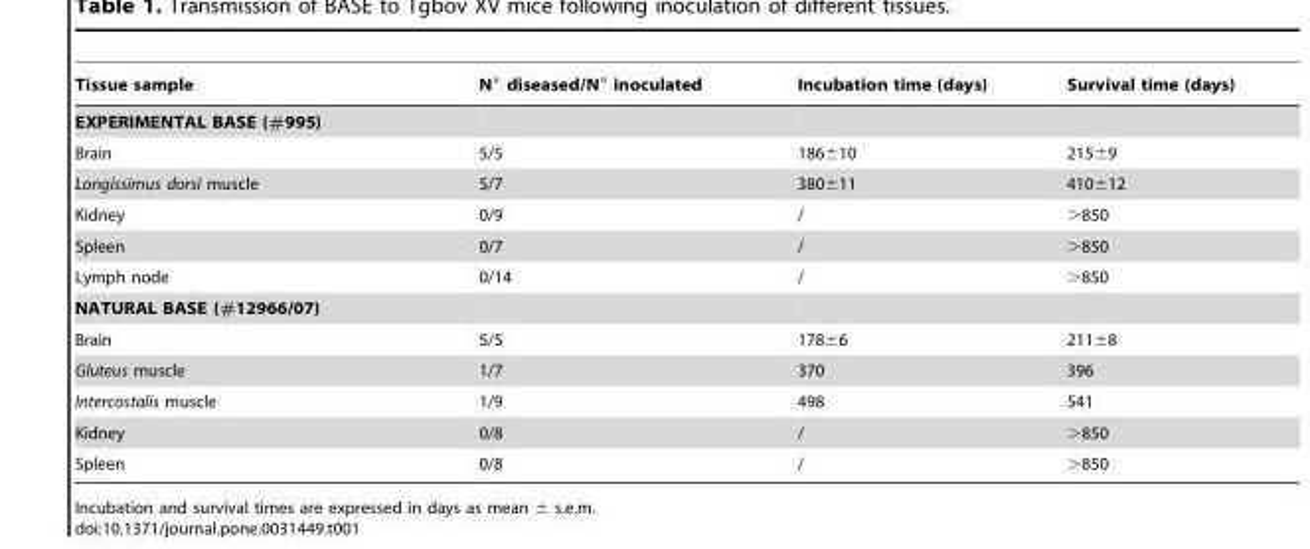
<table><thead><tr><td>Tissue sample</td><td>N° diseased/N° inoculated</td><td>Incubation time (days)</td><td>Survival time (days)</td></tr></thead><tbody><tr><td colspan="4">EXPERIMENTAL BASE (#995)</td></tr><tr><td>Brain</td><td>5/5</td><td>186±10</td><td>215±9</td></tr><tr><td>Longissimus dorsi muscle</td><td>5/7</td><td>380±11</td><td>410±12</td></tr><tr><td>Kidney</td><td>0/9</td><td>/</td><td>&gt;850</td></tr><tr><td>Spleen</td><td>0/7</td><td>/</td><td>&gt;850</td></tr><tr><td>Lymph node</td><td>0/14</td><td>/</td><td>&gt;850</td></tr><tr><td colspan="4">NATURAL BASE (#12966/07)</td></tr><tr><td>Brain</td><td>5/5</td><td>178±6</td><td>211±8</td></tr><tr><td>Gluteus muscle</td><td>1/7</td><td>370</td><td>396</td></tr><tr><td>Intercostalis muscle</td><td>1/9</td><td>498</td><td>541</td></tr><tr><td>Kidney</td><td>0/8</td><td>/</td><td>&gt;850</td></tr><tr><td>Spleen</td><td>0/8</td><td>/</td><td>&gt;850</td></tr></tbody></table>